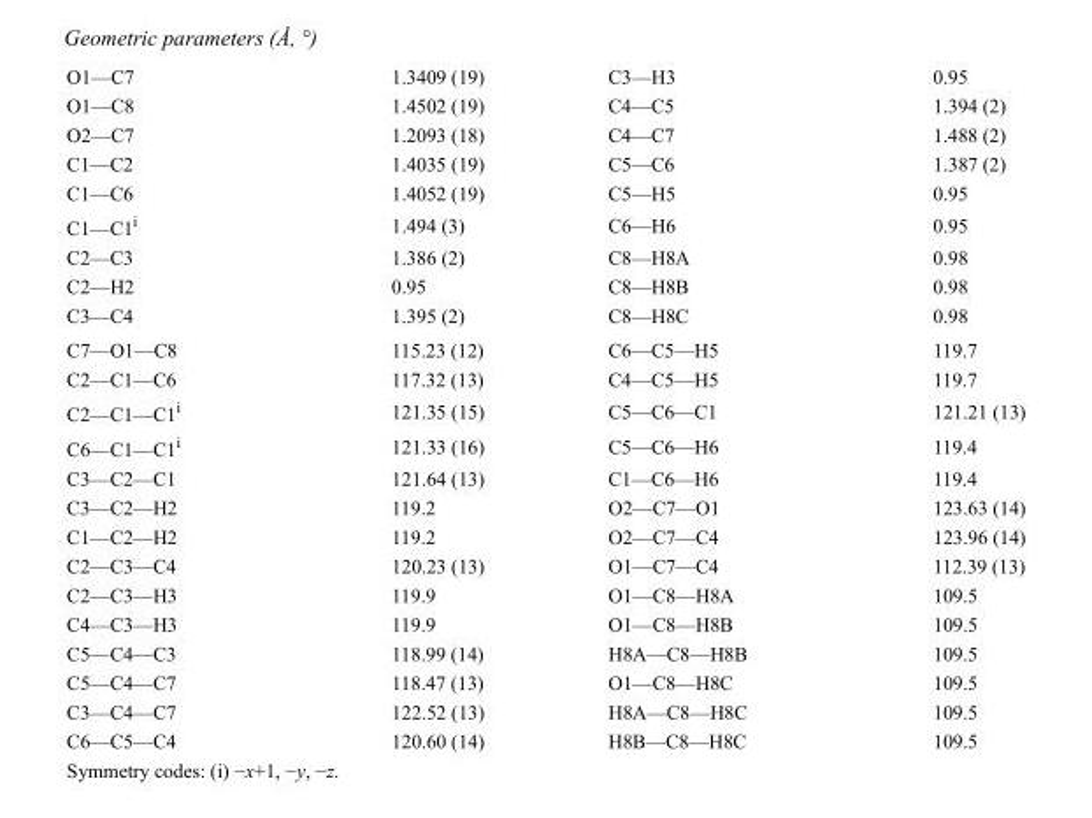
<table><tbody><tr><td>O1—C7</td><td>1.3409 (19)</td><td>C3—H3</td><td>0.95</td></tr><tr><td>O1—C8</td><td>1.4502 (19)</td><td>C4—C5</td><td>1.394 (2)</td></tr><tr><td>O2—C7</td><td>1.2093 (18)</td><td>C4—C7</td><td>1.488 (2)</td></tr><tr><td>C1—C2</td><td>1.4035 (19)</td><td>C5—C6</td><td>1.387 (2)</td></tr><tr><td>C1—C6</td><td>1.4052 (19)</td><td>C5—H5</td><td>0.95</td></tr><tr><td>C1—C1<sup>i</sup></td><td>1.494 (3)</td><td>C6—H6</td><td>0.95</td></tr><tr><td>C2—C3</td><td>1.386 (2)</td><td>C8—H8A</td><td>0.98</td></tr><tr><td>C2—H2</td><td>0.95</td><td>C8—H8B</td><td>0.98</td></tr><tr><td>C3—C4</td><td>1.395 (2)</td><td>C8—H8C</td><td>0.98</td></tr><tr><td>C7—O1—C8</td><td>115.23 (12)</td><td>C6—C5—H5</td><td>119.7</td></tr><tr><td>C2—C1—C6</td><td>117.32 (13)</td><td>C4—C5—H5</td><td>119.7</td></tr><tr><td>C2—C1—C1<sup>i</sup></td><td>121.35 (15)</td><td>C5—C6—C1</td><td>121.21 (13)</td></tr><tr><td>C6—C1—C1<sup>i</sup></td><td>121.33 (16)</td><td>C5—C6—H6</td><td>119.4</td></tr><tr><td>C3—C2—C1</td><td>121.64 (13)</td><td>C1—C6—H6</td><td>119.4</td></tr><tr><td>C3—C2—H2</td><td>119.2</td><td>O2—C7—O1</td><td>123.63 (14)</td></tr><tr><td>C1—C2—H2</td><td>119.2</td><td>O2—C7—C4</td><td>123.96 (14)</td></tr><tr><td>C2—C3—C4</td><td>120.23 (13)</td><td>O1—C7—C4</td><td>112.39 (13)</td></tr><tr><td>C2—C3—H3</td><td>119.9</td><td>O1—C8—H8A</td><td>109.5</td></tr><tr><td>C4—C3—H3</td><td>119.9</td><td>O1—C8—H8B</td><td>109.5</td></tr><tr><td>C5—C4—C3</td><td>118.99 (14)</td><td>H8A—C8—H8B</td><td>109.5</td></tr><tr><td>C5—C4—C7</td><td>118.47 (13)</td><td>O1—C8—H8C</td><td>109.5</td></tr><tr><td>C3—C4—C7</td><td>122.52 (13)</td><td>H8A—C8—H8C</td><td>109.5</td></tr><tr><td>C6—C5—C4</td><td>120.60 (14)</td><td>H8B—C8—H8C</td><td>109.5</td></tr></tbody></table>